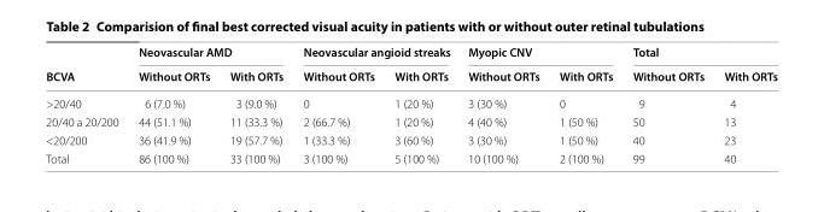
<table><thead><tr><td rowspan="2">BCVA</td><td colspan="2">Neovascular AMD</td><td colspan="2">Neovascular angioid streaks</td><td colspan="2">Myopic CNV</td><td colspan="2">Total</td></tr><tr><td>Without ORTs</td><td>With ORTs</td><td>Without ORTs</td><td>With ORTs</td><td>Without ORTs</td><td>With ORTs</td><td>Without ORTs</td><td>With ORTs</td></tr></thead><tbody><tr><td>&gt;20/40</td><td>6 (7.0 %)</td><td>3 (9.0 %)</td><td>0</td><td>1 (20 %)</td><td>3 (30 %)</td><td>0</td><td>9</td><td>4</td></tr><tr><td>20/40 a 20/200</td><td>44 (51.1 %)</td><td>11 (33.3 %)</td><td>2 (66.7 %)</td><td>1 (20 %)</td><td>4 (40 %)</td><td>1 (50 %)</td><td>50</td><td>13</td></tr><tr><td>&lt;20/200</td><td>36 (41.9 %)</td><td>19 (57.7 %)</td><td>1 (33.3 %)</td><td>3 (60 %)</td><td>3 (30 %)</td><td>1 (50 %)</td><td>40</td><td>23</td></tr><tr><td>Total</td><td>86 (100 %)</td><td>33 (100 %)</td><td>3 (100 %)</td><td>5 (100 %)</td><td>10 (100 %)</td><td>2 (100 %)</td><td>99</td><td>40</td></tr></tbody></table>